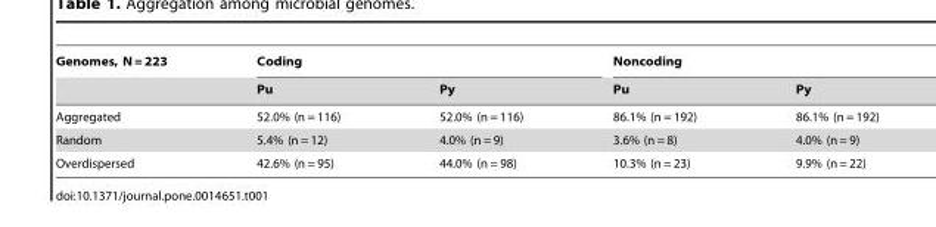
<table><thead><tr><td rowspan="2">Genomes, N = 223</td><td colspan="2">Coding</td><td colspan="2">Noncoding</td></tr><tr><td>Pu</td><td>Py</td><td>Pu</td><td>Py</td></tr></thead><tbody><tr><td>Aggregated</td><td>52.0% (n = 116)</td><td>52.0% (n = 116)</td><td>86.1% (n = 192)</td><td>86.1% (n = 192)</td></tr><tr><td>Random</td><td>5.4% (n = 12)</td><td>4.0% (n = 9)</td><td>3.6% (n = 8)</td><td>4.0% (n = 9)</td></tr><tr><td>Overdispersed</td><td>42.6% (n = 95)</td><td>44.0% (n = 98)</td><td>10.3% (n = 23)</td><td>9.9% (n = 22)</td></tr></tbody></table>